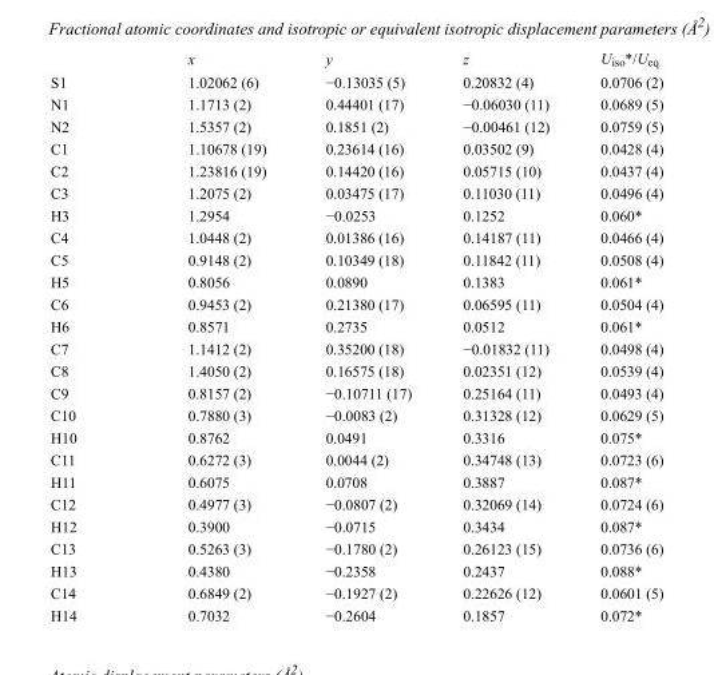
<table><thead><tr><td></td><td>x</td><td>y</td><td>z</td><td>U<sub>iso</sub>*/U<sub>eq</sub></td></tr></thead><tbody><tr><td>S1</td><td>1.02062 (6)</td><td>−0.13035 (5)</td><td>0.20832 (4)</td><td>0.0706 (2)</td></tr><tr><td>N1</td><td>1.1713 (2)</td><td>0.44401 (17)</td><td>−0.06030 (11)</td><td>0.0689 (5)</td></tr><tr><td>N2</td><td>1.5357 (2)</td><td>0.1851 (2)</td><td>−0.00461 (12)</td><td>0.0759 (5)</td></tr><tr><td>C1</td><td>1.10678 (19)</td><td>0.23614 (16)</td><td>0.03502 (9)</td><td>0.0428 (4)</td></tr><tr><td>C2</td><td>1.23816 (19)</td><td>0.14420 (16)</td><td>0.05715 (10)</td><td>0.0437 (4)</td></tr><tr><td>C3</td><td>1.2075 (2)</td><td>0.03475 (17)</td><td>0.11030 (11)</td><td>0.0496 (4)</td></tr><tr><td>H3</td><td>1.2954</td><td>−0.0253</td><td>0.1252</td><td>0.060*</td></tr><tr><td>C4</td><td>1.0448 (2)</td><td>0.01386 (16)</td><td>0.14187 (11)</td><td>0.0466 (4)</td></tr><tr><td>C5</td><td>0.9148 (2)</td><td>0.10349 (18)</td><td>0.11842 (11)</td><td>0.0508 (4)</td></tr><tr><td>H5</td><td>0.8056</td><td>0.0890</td><td>0.1383</td><td>0.061*</td></tr><tr><td>C6</td><td>0.9453 (2)</td><td>0.21380 (17)</td><td>0.06595 (11)</td><td>0.0504 (4)</td></tr><tr><td>H6</td><td>0.8571</td><td>0.2735</td><td>0.0512</td><td>0.061*</td></tr><tr><td>C7</td><td>1.1412 (2)</td><td>0.35200 (18)</td><td>−0.01832 (11)</td><td>0.0498 (4)</td></tr><tr><td>C8</td><td>1.4050 (2)</td><td>0.16575 (18)</td><td>0.02351 (12)</td><td>0.0539 (4)</td></tr><tr><td>C9</td><td>0.8157 (2)</td><td>−0.10711 (17)</td><td>0.25164 (11)</td><td>0.0493 (4)</td></tr><tr><td>C10</td><td>0.7880 (3)</td><td>−0.0083 (2)</td><td>0.31328 (12)</td><td>0.0629 (5)</td></tr><tr><td>H10</td><td>0.8762</td><td>0.0491</td><td>0.3316</td><td>0.075*</td></tr><tr><td>C11</td><td>0.6272 (3)</td><td>0.0044 (2)</td><td>0.34748 (13)</td><td>0.0723 (6)</td></tr><tr><td>H11</td><td>0.6075</td><td>0.0708</td><td>0.3887</td><td>0.087*</td></tr><tr><td>C12</td><td>0.4977 (3)</td><td>−0.0807 (2)</td><td>0.32069 (14)</td><td>0.0724 (6)</td></tr><tr><td>H12</td><td>0.3900</td><td>−0.0715</td><td>0.3434</td><td>0.087*</td></tr><tr><td>C13</td><td>0.5263 (3)</td><td>−0.1780 (2)</td><td>0.26123 (15)</td><td>0.0736 (6)</td></tr><tr><td>H13</td><td>0.4380</td><td>−0.2358</td><td>0.2437</td><td>0.088*</td></tr><tr><td>C14</td><td>0.6849 (2)</td><td>−0.1927 (2)</td><td>0.22626 (12)</td><td>0.0601 (5)</td></tr><tr><td>H14</td><td>0.7032</td><td>−0.2604</td><td>0.1857</td><td>0.072*</td></tr></tbody></table>